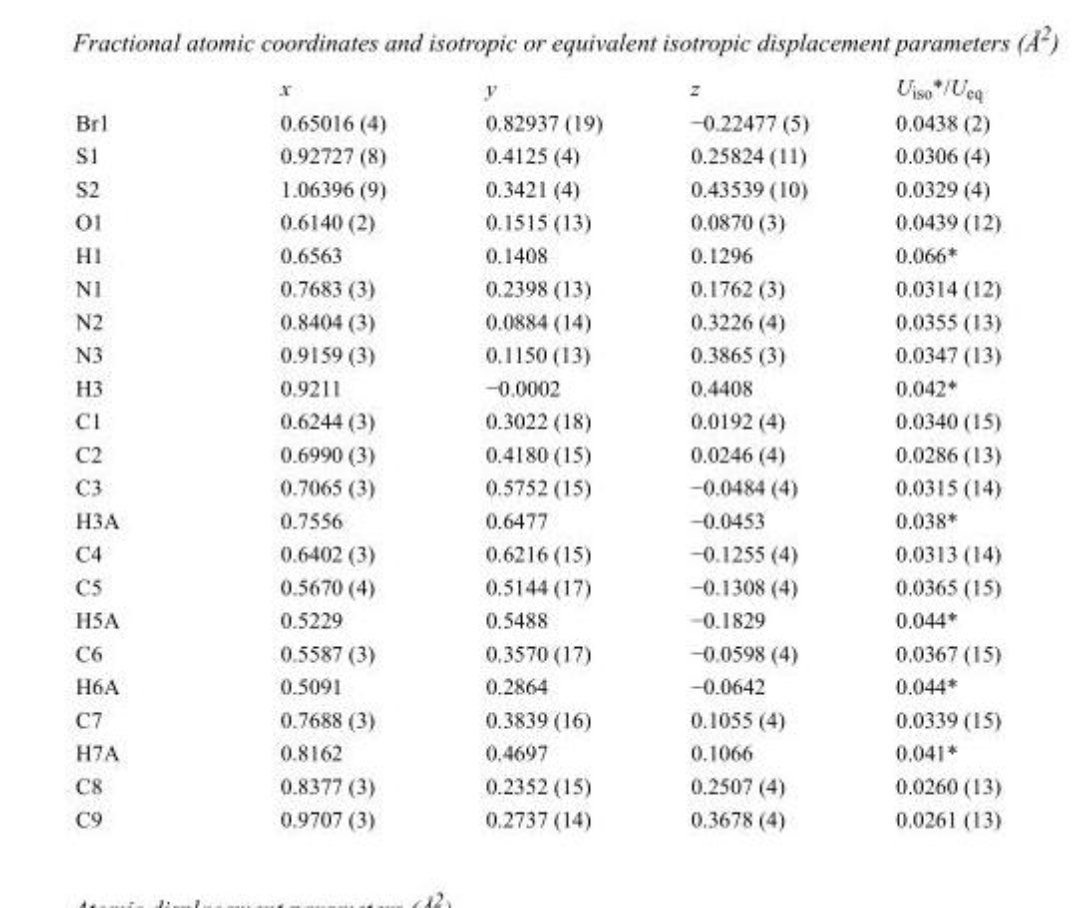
<table><thead><tr><td></td><td>x</td><td>y</td><td>z</td><td>U<sub>iso</sub>*/U<sub>eq</sub></td></tr></thead><tbody><tr><td>Br1</td><td>0.65016 (4)</td><td>0.82937 (19)</td><td>−0.22477 (5)</td><td>0.0438 (2)</td></tr><tr><td>S1</td><td>0.92727 (8)</td><td>0.4125 (4)</td><td>0.25824 (11)</td><td>0.0306 (4)</td></tr><tr><td>S2</td><td>1.06396 (9)</td><td>0.3421 (4)</td><td>0.43539 (10)</td><td>0.0329 (4)</td></tr><tr><td>O1</td><td>0.6140 (2)</td><td>0.1515 (13)</td><td>0.0870 (3)</td><td>0.0439 (12)</td></tr><tr><td>H1</td><td>0.6563</td><td>0.1408</td><td>0.1296</td><td>0.066*</td></tr><tr><td>N1</td><td>0.7683 (3)</td><td>0.2398 (13)</td><td>0.1762 (3)</td><td>0.0314 (12)</td></tr><tr><td>N2</td><td>0.8404 (3)</td><td>0.0884 (14)</td><td>0.3226 (4)</td><td>0.0355 (13)</td></tr><tr><td>N3</td><td>0.9159 (3)</td><td>0.1150 (13)</td><td>0.3865 (3)</td><td>0.0347 (13)</td></tr><tr><td>H3</td><td>0.9211</td><td>−0.0002</td><td>0.4408</td><td>0.042*</td></tr><tr><td>C1</td><td>0.6244 (3)</td><td>0.3022 (18)</td><td>0.0192 (4)</td><td>0.0340 (15)</td></tr><tr><td>C2</td><td>0.6990 (3)</td><td>0.4180 (15)</td><td>0.0246 (4)</td><td>0.0286 (13)</td></tr><tr><td>C3</td><td>0.7065 (3)</td><td>0.5752 (15)</td><td>−0.0484 (4)</td><td>0.0315 (14)</td></tr><tr><td>H3A</td><td>0.7556</td><td>0.6477</td><td>−0.0453</td><td>0.038*</td></tr><tr><td>C4</td><td>0.6402 (3)</td><td>0.6216 (15)</td><td>−0.1255 (4)</td><td>0.0313 (14)</td></tr><tr><td>C5</td><td>0.5670 (4)</td><td>0.5144 (17)</td><td>−0.1308 (4)</td><td>0.0365 (15)</td></tr><tr><td>H5A</td><td>0.5229</td><td>0.5488</td><td>−0.1829</td><td>0.044*</td></tr><tr><td>C6</td><td>0.5587 (3)</td><td>0.3570 (17)</td><td>−0.0598 (4)</td><td>0.0367 (15)</td></tr><tr><td>H6A</td><td>0.5091</td><td>0.2864</td><td>−0.0642</td><td>0.044*</td></tr><tr><td>C7</td><td>0.7688 (3)</td><td>0.3839 (16)</td><td>0.1055 (4)</td><td>0.0339 (15)</td></tr><tr><td>H7A</td><td>0.8162</td><td>0.4697</td><td>0.1066</td><td>0.041*</td></tr><tr><td>C8</td><td>0.8377 (3)</td><td>0.2352 (15)</td><td>0.2507 (4)</td><td>0.0260 (13)</td></tr><tr><td>C9</td><td>0.9707 (3)</td><td>0.2737 (14)</td><td>0.3678 (4)</td><td>0.0261 (13)</td></tr></tbody></table>